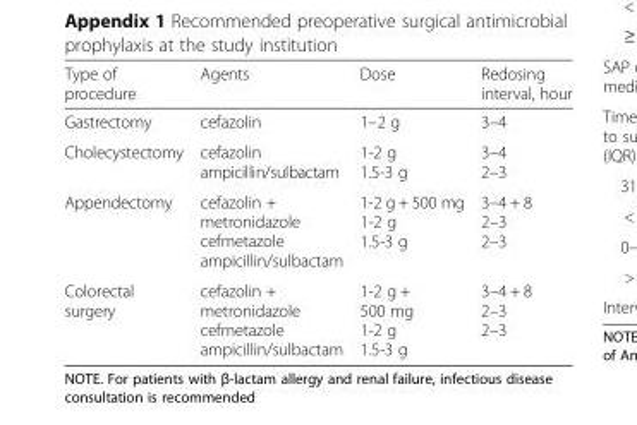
<table><thead><tr><td>Type of procedure</td><td>Agents</td><td>Dose</td><td>Redosing interval, hour</td></tr></thead><tbody><tr><td>Gastrectomy</td><td>cefazolin</td><td>1–2 g</td><td>3–4</td></tr><tr><td>Cholecystectomy</td><td>cefazolin ampicillin/sulbactam</td><td>1-2 g 1.5-3 g</td><td>3–4 2–3</td></tr><tr><td>Appendectomy</td><td>cefazolin + metronidazole cefmetazole ampicillin/sulbactam</td><td>1-2 g + 500 mg 1-2 g 1.5-3 g</td><td>3–4 + 8 2–3 2–3</td></tr><tr><td>Colorectal surgery</td><td>cefazolin + metronidazole cefmetazole ampicillin/sulbactam</td><td>1-2 g + 500 mg 1-2 g 1.5-3 g</td><td>3–4 + 8 2–3 2–3</td></tr></tbody></table>